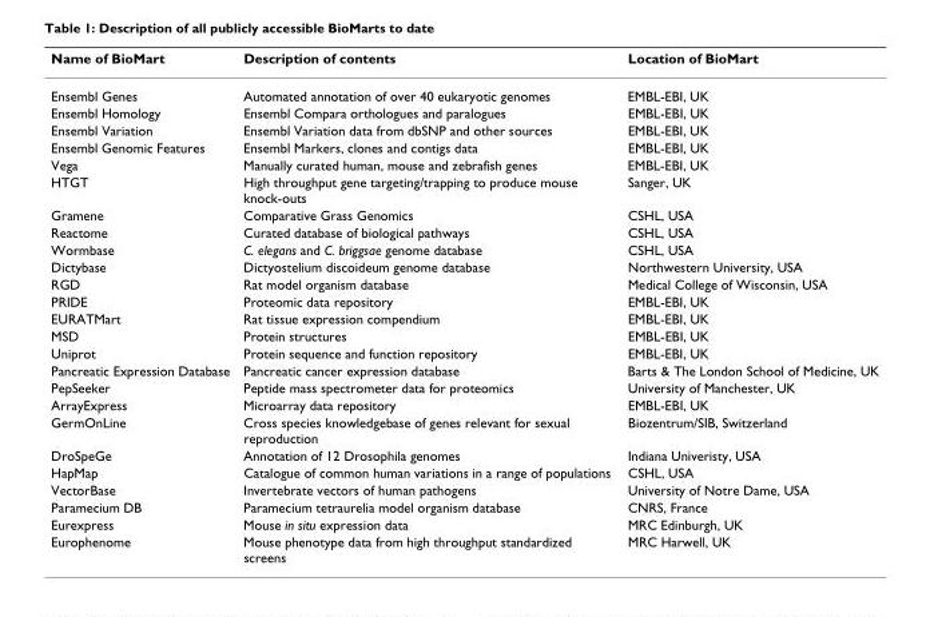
<table><thead><tr><td>Name of BioMart</td><td>Description of contents</td><td>Location of BioMart</td></tr></thead><tbody><tr><td>Ensembl Genes</td><td>Automated annotation of over 40 eukaryotic genomes</td><td>EMBL-EBI, UK</td></tr><tr><td>Ensembl Homology</td><td>Ensembl Compara orthologues and paralogues</td><td>EMBL-EBI, UK</td></tr><tr><td>Ensembl Variation</td><td>Ensembl Variation data from dbSNP and other sources</td><td>EMBL-EBI, UK</td></tr><tr><td>Ensembl Genomic Features</td><td>Ensembl Markers, clones and contigs data</td><td>EMBL-EBI, UK</td></tr><tr><td>Vega</td><td>Manually curated human, mouse and zebrafish genes</td><td>EMBL-EBI, UK</td></tr><tr><td>HTGT</td><td>High throughput gene targeting/trapping to produce mouse knock-outs</td><td>Sanger, UK</td></tr><tr><td>Gramene</td><td>Comparative Grass Genomics</td><td>CSHL, USA</td></tr><tr><td>Reactome</td><td>Curated database of biological pathways</td><td>CSHL, USA</td></tr><tr><td>Wormbase</td><td>C. elegans and C. briggsae genome database</td><td>CSHL, USA</td></tr><tr><td>Dictybase</td><td>Dictyostelium discoideum genome database</td><td>Northwestern University, USA</td></tr><tr><td>RGD</td><td>Rat model organism database</td><td>Medical College of Wisconsin, USA</td></tr><tr><td>PRIDE</td><td>Proteomic data repository</td><td>EMBL-EBI, UK</td></tr><tr><td>EURATMart</td><td>Rat tissue expression compendium</td><td>EMBL-EBI, UK</td></tr><tr><td>MSD</td><td>Protein structures</td><td>EMBL-EBI, UK</td></tr><tr><td>Uniprot</td><td>Protein sequence and function repository</td><td>EMBL-EBI, UK</td></tr><tr><td>Pancreatic Expression Database</td><td>Pancreatic cancer expression database</td><td>Barts &amp; The London School of Medicine, UK</td></tr><tr><td>PepSeeker</td><td>Peptide mass spectrometer data for proteomics</td><td>University of Manchester, UK</td></tr><tr><td>ArrayExpress</td><td>Microarray data repository</td><td>EMBL-EBI, UK</td></tr><tr><td>GermOnLine</td><td>Cross species knowledgebase of genes relevant for sexual reproduction</td><td>Biozentrum/SIB, Switzerland</td></tr><tr><td>DroSpeGe</td><td>Annotation of 12 Drosophila genomes</td><td>Indiana Univeristy, USA</td></tr><tr><td>HapMap</td><td>Catalogue of common human variations in a range of populations</td><td>CSHL, USA</td></tr><tr><td>VectorBase</td><td>Invertebrate vectors of human pathogens</td><td>University of Notre Dame, USA</td></tr><tr><td>Paramecium DB</td><td>Paramecium tetraurelia model organism database</td><td>CNRS, France</td></tr><tr><td>Eurexpress</td><td>Mouse in situ expression data</td><td>MRC Edinburgh, UK</td></tr><tr><td>Europhenome</td><td>Mouse phenotype data from high throughput standardized screens</td><td>MRC Harwell, UK</td></tr></tbody></table>